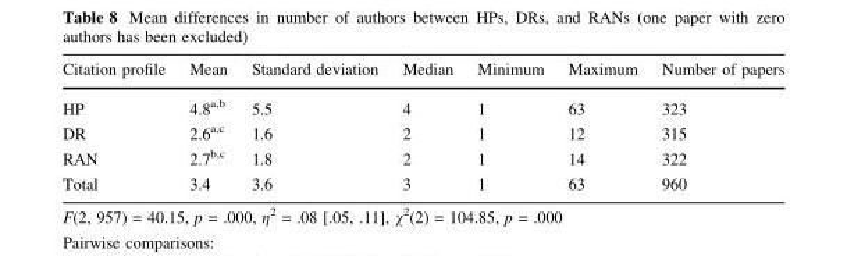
<table><thead><tr><td>Citation profile</td><td>Mean</td><td>Standard deviation</td><td>Median</td><td>Minimum</td><td>Maximum</td><td>Number of papers</td></tr></thead><tbody><tr><td>HP</td><td>4.8<sup>a,b</sup></td><td>5.5</td><td>4</td><td>1</td><td>63</td><td>323</td></tr><tr><td>DR</td><td>2.6<sup>a,c</sup></td><td>1.6</td><td>2</td><td>1</td><td>12</td><td>315</td></tr><tr><td>RAN</td><td>2.7<sup>b,c</sup></td><td>1.8</td><td>2</td><td>1</td><td>14</td><td>322</td></tr><tr><td>Total</td><td>3.4</td><td>3.6</td><td>3</td><td>1</td><td>63</td><td>960</td></tr></tbody></table>